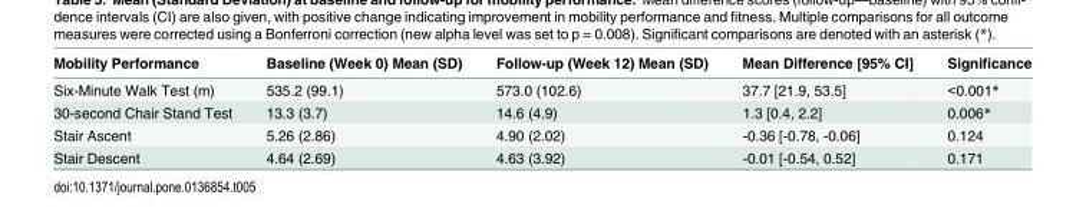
<table><thead><tr><td>Mobility Performance</td><td>Baseline (Week 0) Mean (SD)</td><td>Follow-up (Week 12) Mean (SD)</td><td>Mean Difference [95% CI]</td><td>Significance</td></tr></thead><tbody><tr><td>Six-Minute Walk Test (m)</td><td>535.2 (99.1)</td><td>573.0 (102.6)</td><td>37.7 [21.9, 53.5]</td><td>&lt;0.001*</td></tr><tr><td>30-second Chair Stand Test</td><td>13.3 (3.7)</td><td>14.6 (4.9)</td><td>1.3 [0.4, 2.2]</td><td>0.006*</td></tr><tr><td>Stair Ascent</td><td>5.26 (2.86)</td><td>4.90 (2.02)</td><td>-0.36 [-0.78, -0.06]</td><td>0.124</td></tr><tr><td>Stair Descent</td><td>4.64 (2.69)</td><td>4.63 (3.92)</td><td>-0.01 [-0.54, 0.52]</td><td>0.171</td></tr></tbody></table>